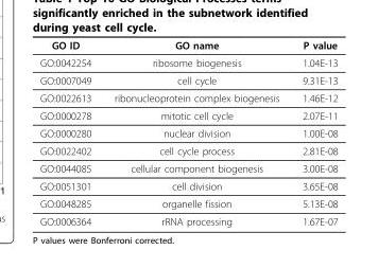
<table><thead><tr><td>GO ID</td><td>GO name</td><td>P value</td></tr></thead><tbody><tr><td>GO:0042254</td><td>ribosome biogenesis</td><td>1.04E-13</td></tr><tr><td>GO:0007049</td><td>cell cycle</td><td>9.31E-13</td></tr><tr><td>GO:0022613</td><td>ribonucleoprotein complex biogenesis</td><td>1.46E-12</td></tr><tr><td>GO:0000278</td><td>mitotic cell cycle</td><td>2.07E-11</td></tr><tr><td>GO:0000280</td><td>nuclear division</td><td>1.00E-08</td></tr><tr><td>GO:0022402</td><td>cell cycle process</td><td>2.81E-08</td></tr><tr><td>GO:0044085</td><td>cellular component biogenesis</td><td>3.00E-08</td></tr><tr><td>GO:0051301</td><td>cell division</td><td>3.65E-08</td></tr><tr><td>GO:0048285</td><td>organelle fission</td><td>5.13E-08</td></tr><tr><td>GO:0006364</td><td>rRNA processing</td><td>1.67E-07</td></tr></tbody></table>